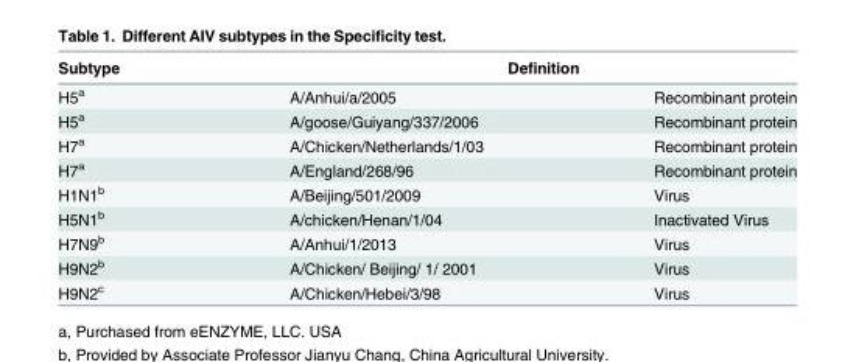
<table><thead><tr><td rowspan="2">Subtype H5<sup>a</sup></td><td colspan="2">Definition</td></tr><tr><td>A/Anhui/a/2005</td><td>Recombinant protein</td></tr></thead><tbody><tr><td>H5<sup>a</sup></td><td>A/goose/Guiyang/337/2006</td><td>Recombinant protein</td></tr><tr><td>H7<sup>a</sup></td><td>A/Chicken/Netherlands/1/03</td><td>Recombinant protein</td></tr><tr><td>H7<sup>a</sup></td><td>A/England/268/96</td><td>Recombinant protein</td></tr><tr><td>H1N1<sup>b</sup></td><td>A/Beijing/501/2009</td><td>Virus</td></tr><tr><td>H5N1<sup>b</sup></td><td>A/chicken/Henan/1/04</td><td>Inactivated Virus</td></tr><tr><td>H7N9<sup>b</sup></td><td>A/Anhui/1/2013</td><td>Virus</td></tr><tr><td>H9N2<sup>b</sup></td><td>A/Chicken/ Beijing/ 1/ 2001</td><td>Virus</td></tr><tr><td>H9N2<sup>c</sup></td><td>A/Chicken/Hebei/3/98</td><td>Virus</td></tr></tbody></table>